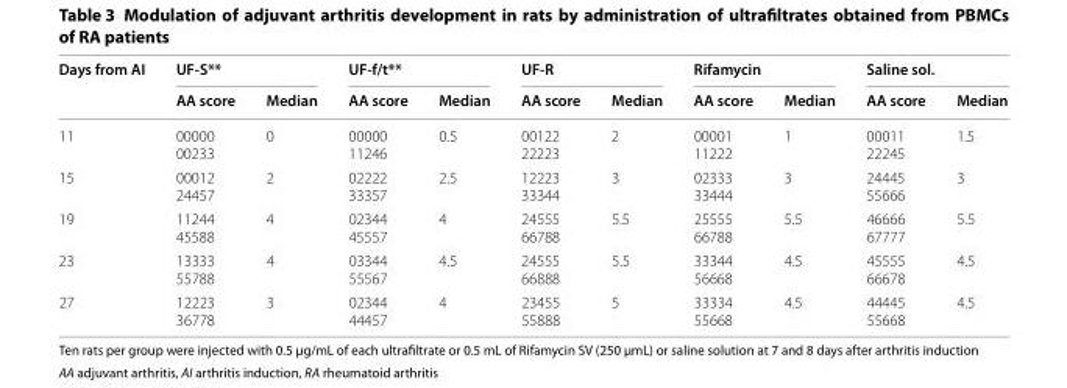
<table><thead><tr><td rowspan="2">Days from AI</td><td colspan="2">UF‑S**</td><td colspan="2">UF‑f/t**</td><td colspan="2">UF‑R</td><td colspan="2">Rifamycin</td><td colspan="2">Saline sol.</td></tr><tr><td>AA score</td><td>Median</td><td>AA score</td><td>Median</td><td>AA score</td><td>Median</td><td>AA score</td><td>Median</td><td>AA score</td><td>Median</td></tr></thead><tbody><tr><td>11</td><td>00000 00233</td><td>0</td><td>00000 11246</td><td>0.5</td><td>00122 22223</td><td>2</td><td>00001 11222</td><td>1</td><td>00011 22245</td><td>1.5</td></tr><tr><td>15</td><td>00012 24457</td><td>2</td><td>02222 33357</td><td>2.5</td><td>12223 33344</td><td>3</td><td>02333 33444</td><td>3</td><td>24445 55666</td><td>3</td></tr><tr><td>19</td><td>11244 45588</td><td>4</td><td>02344 45557</td><td>4</td><td>24555 66788</td><td>5.5</td><td>25555 66788</td><td>5.5</td><td>46666 67777</td><td>5.5</td></tr><tr><td>23</td><td>13333 55788</td><td>4</td><td>03344 55567</td><td>4.5</td><td>24555 66888</td><td>5.5</td><td>33344 56668</td><td>4.5</td><td>45555 66678</td><td>4.5</td></tr><tr><td>27</td><td>12223 36778</td><td>3</td><td>02344 44457</td><td>4</td><td>23455 55888</td><td>5</td><td>33334 55668</td><td>4.5</td><td>44445 55668</td><td>4.5</td></tr></tbody></table>